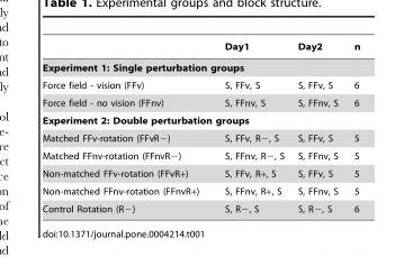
<table><thead><tr><td></td><td>Day1</td><td>Day2</td><td>n</td></tr></thead><tbody><tr><td colspan="4">Experiment 1: Single perturbation groups</td></tr><tr><td>Force field - vision (FFv)</td><td>S, FFv, S</td><td>S, FFv, S</td><td>6</td></tr><tr><td>Force field - no vision (FFnv)</td><td>S, FFnv, S</td><td>S, FFnv, S</td><td>6</td></tr><tr><td colspan="4">Experiment 2: Double perturbation groups</td></tr><tr><td>Matched FFv-rotation (FFvR−)</td><td>S, FFv, R−, S</td><td>S, FFv, S</td><td>5</td></tr><tr><td>Matched FFnv-rotation (FFnvR−)</td><td>S, FFnv, R−, S</td><td>S, FFnv, S</td><td>5</td></tr><tr><td>Non-matched FFv-rotation (FFvR+)</td><td>S, FFv, R+, S</td><td>S, FFv, S</td><td>5</td></tr><tr><td>Non-matched FFnv-rotation (FFnvR+)</td><td>S, FFnv, R+, S</td><td>S, FFnv, S</td><td>5</td></tr><tr><td>Control Rotation (R−)</td><td>S, R−, S</td><td>S, R−, S</td><td>6</td></tr></tbody></table>